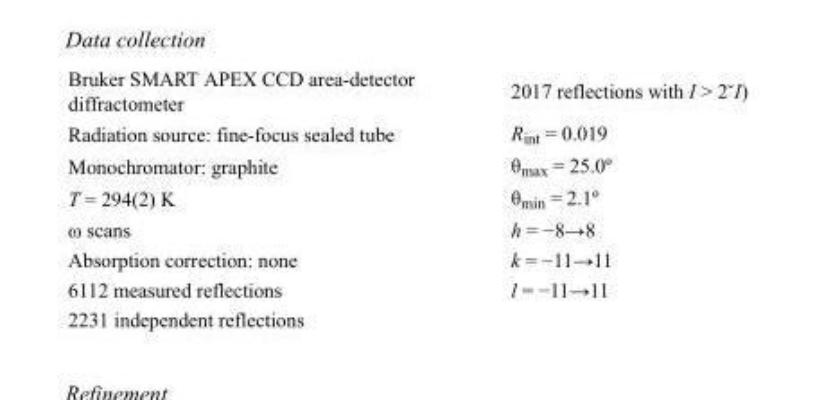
<table><tbody><tr><td>Bruker SMART APEX CCD area-detector diffractometer</td><td>2017 reflections with I &gt; 2˘I)</td></tr><tr><td>Radiation source: fine-focus sealed tube</td><td>R<sub>int</sub> = 0.019</td></tr><tr><td>Monochromator: graphite</td><td>θ<sub>max</sub> = 25.0º</td></tr><tr><td>T = 294(2) K</td><td>θ<sub>min</sub> = 2.1º</td></tr><tr><td>ω scans</td><td>h = −8→8</td></tr><tr><td>Absorption correction: none</td><td>k = −11→11</td></tr><tr><td>6112 measured reflections</td><td>l = −11→11</td></tr><tr><td>2231 independent reflections</td><td></td></tr></tbody></table>